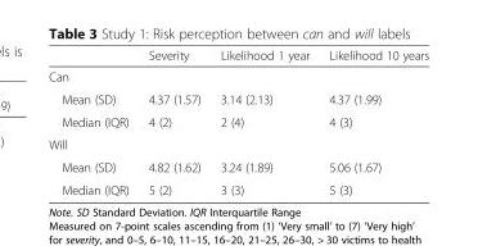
<table><thead><tr><td></td><td>Severity</td><td>Likelihood 1 year</td><td>Likelihood 10 years</td></tr></thead><tbody><tr><td colspan="4">Can</td></tr><tr><td>Mean (SD)</td><td>4.37 (1.57)</td><td>3.14 (2.13)</td><td>4.37 (1.99)</td></tr><tr><td>Median (IQR)</td><td>4 (2)</td><td>2 (4)</td><td>4 (3)</td></tr><tr><td colspan="4">Will</td></tr><tr><td>Mean (SD)</td><td>4.82 (1.62)</td><td>3.24 (1.89)</td><td>5.06 (1.67)</td></tr><tr><td>Median (IQR)</td><td>5 (2)</td><td>3 (3)</td><td>5 (3)</td></tr></tbody></table>